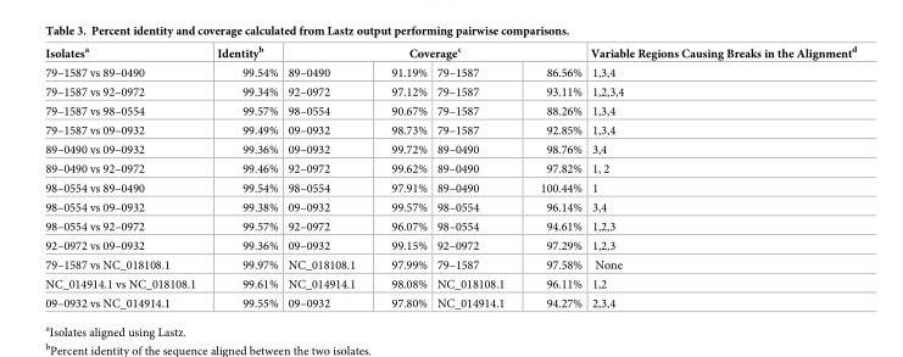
<table><thead><tr><td rowspan="2">Isolates<sup>a</sup> 79–1587 vs 89–0490</td><td rowspan="2">Identity<sup>b</sup> 99.54%</td><td colspan="4">Coverage<sup>c</sup></td><td rowspan="2">Variable Regions Causing Breaks in the Alignment<sup>d</sup> 1,3,4</td></tr><tr><td>89–0490</td><td>91.19%</td><td>79–1587</td><td>86.56%</td></tr></thead><tbody><tr><td>79–1587 vs 92–0972</td><td>99.34%</td><td>92–0972</td><td>97.12%</td><td>79–1587</td><td>93.11%</td><td>1,2,3,4</td></tr><tr><td>79–1587 vs 98–0554</td><td>99.57%</td><td>98–0554</td><td>90.67%</td><td>79–1587</td><td>88.26%</td><td>1,3,4</td></tr><tr><td>79–1587 vs 09–0932</td><td>99.49%</td><td>09–0932</td><td>98.73%</td><td>79–1587</td><td>92.85%</td><td>1,3,4</td></tr><tr><td>89–0490 vs 09–0932</td><td>99.36%</td><td>09–0932</td><td>99.72%</td><td>89–0490</td><td>98.76%</td><td>3,4</td></tr><tr><td>89–0490 vs 92–0972</td><td>99.46%</td><td>92–0972</td><td>99.62%</td><td>89–0490</td><td>97.82%</td><td>1, 2</td></tr><tr><td>98–0554 vs 89–0490</td><td>99.54%</td><td>98–0554</td><td>97.91%</td><td>89–0490</td><td>100.44%</td><td>1</td></tr><tr><td>98–0554 vs 09–0932</td><td>99.38%</td><td>09–0932</td><td>99.57%</td><td>98–0554</td><td>96.14%</td><td>3,4</td></tr><tr><td>98–0554 vs 92–0972</td><td>99.57%</td><td>92–0972</td><td>96.07%</td><td>98–0554</td><td>94.61%</td><td>1,2,3</td></tr><tr><td>92–0972 vs 09–0932</td><td>99.36%</td><td>09–0932</td><td>99.15%</td><td>92–0972</td><td>97.29%</td><td>1,2,3</td></tr><tr><td>79–1587 vs NC_018108.1</td><td>99.97%</td><td>NC_018108.1</td><td>97.99%</td><td>79–1587</td><td>97.58%</td><td>None</td></tr><tr><td>NC_014914.1 vs NC_018108.1</td><td>99.61%</td><td>NC_014914.1</td><td>98.08%</td><td>NC_018108.1</td><td>96.11%</td><td>1,2</td></tr><tr><td>09–0932 vs NC_014914.1</td><td>99.55%</td><td>09–0932</td><td>97.80%</td><td>NC_014914.1</td><td>94.27%</td><td>2,3,4</td></tr></tbody></table>